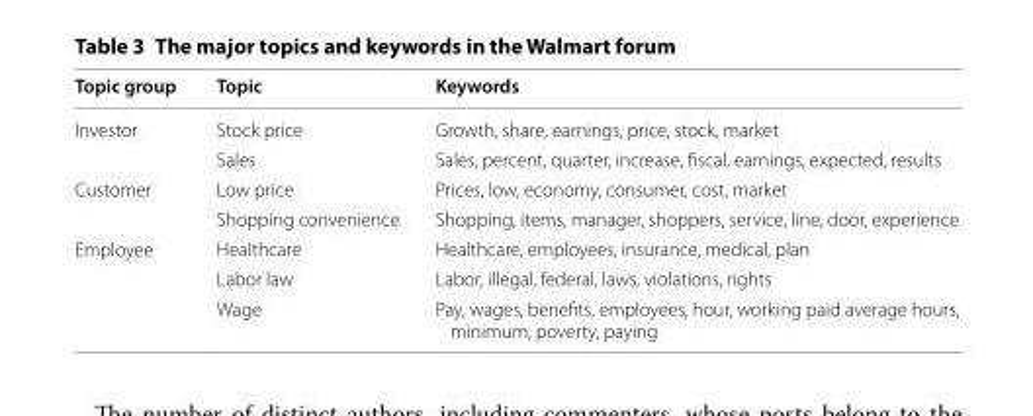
<table><thead><tr><td>Topic group</td><td>Topic</td><td>Keywords</td></tr></thead><tbody><tr><td rowspan="2">Investor</td><td>Stock price</td><td>Growth, share, earnings, price, stock, market</td></tr><tr><td>Sales</td><td>Sales, percent, quarter, increase, fiscal, earnings, expected, results</td></tr><tr><td rowspan="2">Customer</td><td>Low price</td><td>Prices, low, economy, consumer, cost, market</td></tr><tr><td>Shopping convenience</td><td>Shopping, items, manager, shoppers, service, line, door, experience</td></tr><tr><td rowspan="3">Employee</td><td>Healthcare</td><td>Healthcare, employees, insurance, medical, plan</td></tr><tr><td>Labor law</td><td>Labor, illegal, federal, laws, violations, rights</td></tr><tr><td>Wage</td><td>Pay, wages, benefits, employees, hour, working paid average hours, minimum, poverty, paying</td></tr></tbody></table>